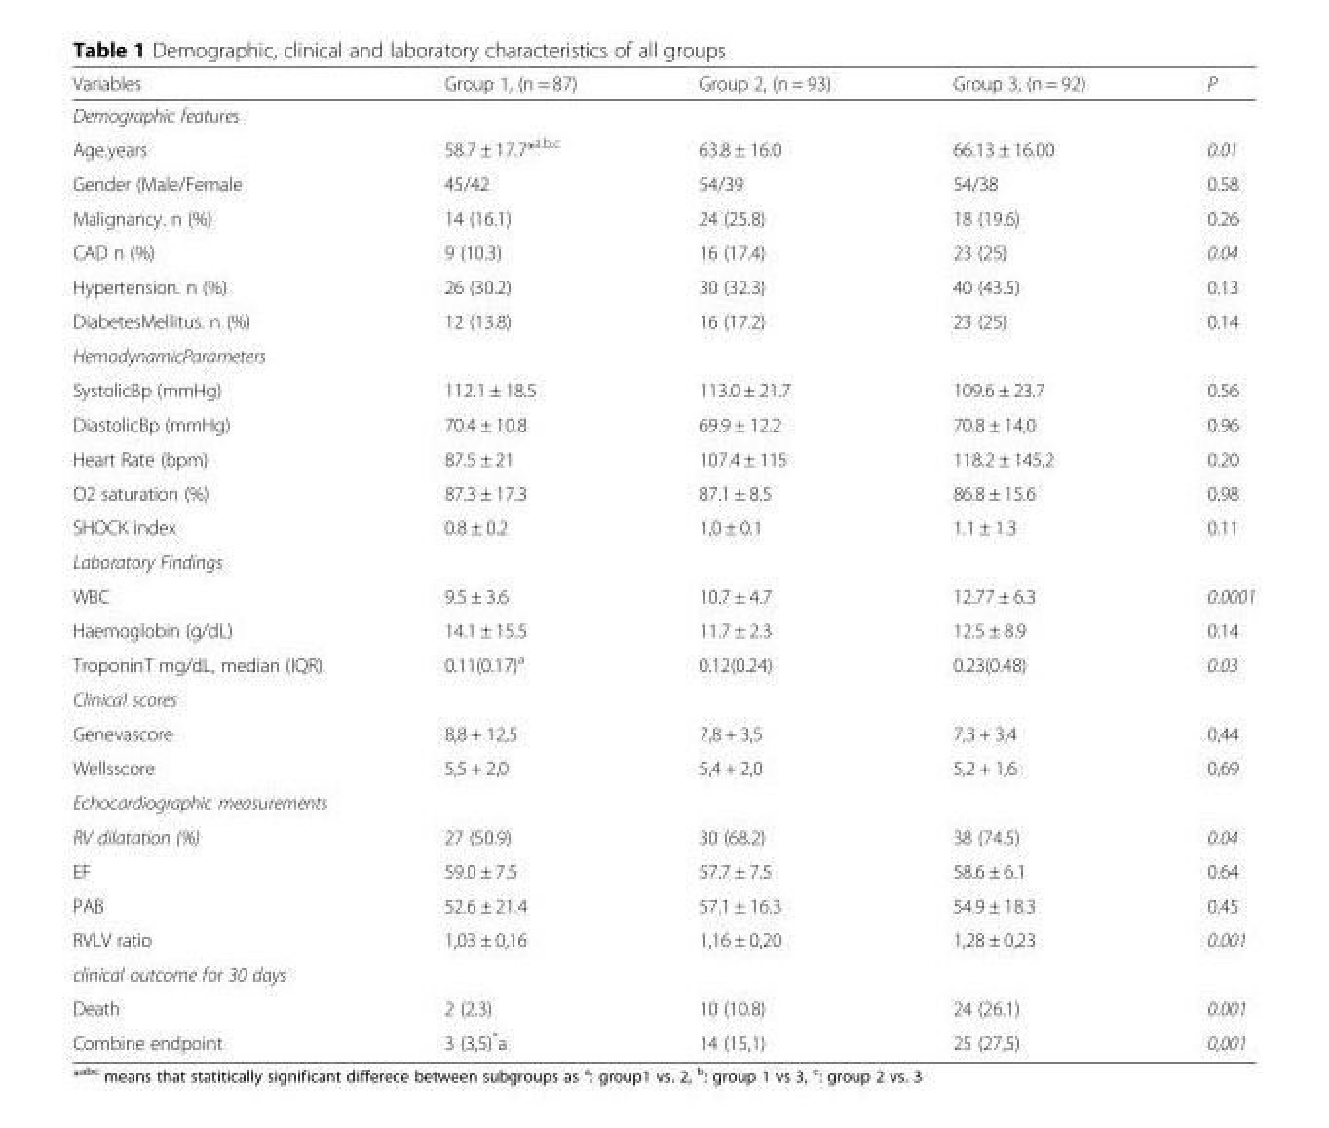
<table><thead><tr><td>Variables</td><td>Group 1, (n = 87)</td><td>Group 2, (n = 93)</td><td>Group 3, (n = 92)</td><td>P</td></tr></thead><tbody><tr><td colspan="5">Demographic features</td></tr><tr><td>Age.years</td><td>58.7 ± 17.7*<sup>a.b.c</sup></td><td>63.8 ± 16.0</td><td>66.13 ± 16.00</td><td>0.01</td></tr><tr><td>Gender (Male/Female</td><td>45/42</td><td>54/39</td><td>54/38</td><td>0.58</td></tr><tr><td>Malignancy. n (%)</td><td>14 (16.1)</td><td>24 (25.8)</td><td>18 (19.6)</td><td>0.26</td></tr><tr><td>CAD n (%)</td><td>9 (10.3)</td><td>16 (17.4)</td><td>23 (25)</td><td>0.04</td></tr><tr><td>Hypertension. n (%)</td><td>26 (30.2)</td><td>30 (32.3)</td><td>40 (43.5)</td><td>0.13</td></tr><tr><td>DiabetesMellitus. n (%)</td><td>12 (13.8)</td><td>16 (17.2)</td><td>23 (25)</td><td>0.14</td></tr><tr><td colspan="5">HemodynamicParameters</td></tr><tr><td>SystolicBp (mmHg)</td><td>112.1 ± 18.5</td><td>113.0 ± 21.7</td><td>109.6 ± 23.7</td><td>0.56</td></tr><tr><td>DiastolicBp (mmHg)</td><td>70.4 ± 10.8</td><td>69.9 ± 12.2</td><td>70.8 ± 14,0</td><td>0.96</td></tr><tr><td>Heart Rate (bpm)</td><td>87.5 ± 21</td><td>107.4 ± 115</td><td>118.2 ± 145,2</td><td>0.20</td></tr><tr><td>O2 saturation (%)</td><td>87.3 ± 17.3</td><td>87.1 ± 8.5</td><td>86.8 ± 15.6</td><td>0.98</td></tr><tr><td>SHOCK index</td><td>0.8 ± 0.2</td><td>1,0 ± 0.1</td><td>1.1 ± 1.3</td><td>0.11</td></tr><tr><td colspan="5">Laboratory Findings</td></tr><tr><td>WBC</td><td>9.5 ± 3.6</td><td>10.7 ± 4.7</td><td>12.77 ± 6.3</td><td>0.0001</td></tr><tr><td>Haemoglobin (g/dL)</td><td>14.1 ± 15.5</td><td>11.7 ± 2.3</td><td>12.5 ± 8.9</td><td>0.14</td></tr><tr><td>TroponinT mg/dL, median (IQR)</td><td>0.11(0.17)<sup>a</sup></td><td>0.12(0.24)</td><td>0.23(0.48)</td><td>0.03</td></tr><tr><td colspan="5">Clinical scores</td></tr><tr><td>Genevascore</td><td>8,8 + 12,5</td><td>7,8 + 3,5</td><td>7,3 + 3,4</td><td>0,44</td></tr><tr><td>Wellsscore</td><td>5,5 + 2,0</td><td>5,4 + 2,0</td><td>5,2 + 1,6</td><td>0,69</td></tr><tr><td colspan="5">Echocardiographic measurements</td></tr><tr><td>RV dilatation (%)</td><td>27 (50.9)</td><td>30 (68.2)</td><td>38 (74.5)</td><td>0.04</td></tr><tr><td>EF</td><td>59.0 ± 7.5</td><td>57.7 ± 7.5</td><td>58.6 ± 6.1</td><td>0.64</td></tr><tr><td>PAB</td><td>52.6 ± 21.4</td><td>57.1 ± 16.3</td><td>54.9 ± 18.3</td><td>0.45</td></tr><tr><td>RVLV ratio</td><td>1,03 ± 0,16</td><td>1,16 ± 0,20</td><td>1,28 ± 0,23</td><td>0.001</td></tr><tr><td colspan="5">clinical outcome for 30 days</td></tr><tr><td>Death</td><td>2 (2.3)</td><td>10 (10.8)</td><td>24 (26.1)</td><td>0.001</td></tr><tr><td>Combine endpoint</td><td>3 (3,5)*a</td><td>14 (15,1)</td><td>25 (27,5)</td><td>0,001</td></tr></tbody></table>